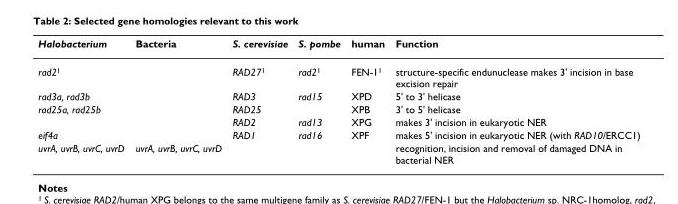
<table><thead><tr><td>Halobacterium</td><td>Bacteria</td><td>S. cerevisiae</td><td>S. pombe</td><td>human</td><td>Function</td></tr></thead><tbody><tr><td>rad2<sup>1</sup></td><td></td><td>RAD27<sup>1</sup></td><td>rad2<sup>1</sup></td><td>FEN-1<sup>1</sup></td><td>structure-specific endunuclease makes 3&#x27; incision in base excision repair</td></tr><tr><td>rad3a, rad3b</td><td></td><td>RAD3</td><td>rad15</td><td>XPD</td><td>5&#x27; to 3&#x27; helicase</td></tr><tr><td rowspan="2">rad25a, rad25b</td><td></td><td>RAD25</td><td></td><td>XPB</td><td>3&#x27; to 5&#x27; helicase</td></tr><tr><td></td><td>RAD2</td><td>rad13</td><td>XPG</td><td>makes 3&#x27; incision in eukaryotic NER</td></tr><tr><td>eif4a</td><td></td><td>RAD1</td><td>rad16</td><td>XPF</td><td>makes 5&#x27; incision in eukaryotic NER (with RAD10/ERCC1)</td></tr><tr><td>uvrA, uvrB, uvrC, uvrD</td><td>uvrA, uvrB, uvrC, uvrD</td><td></td><td></td><td></td><td>recognition, incision and removal of damaged DNA in bacterial NER</td></tr></tbody></table>